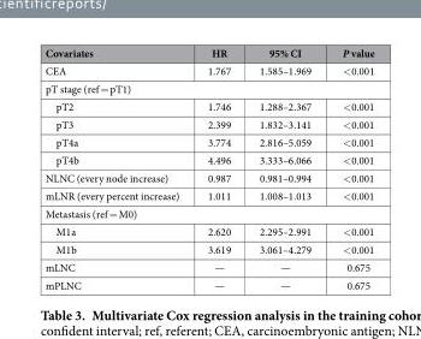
<table><thead><tr><td>Covariates</td><td>HR</td><td>95% CI</td><td>P value</td></tr></thead><tbody><tr><td>CEA</td><td>1.767</td><td>1.585–1.969</td><td>&lt; 0.001</td></tr><tr><td colspan="4">pT stage (ref = pT1)</td></tr><tr><td>pT2</td><td>1.746</td><td>1.288–2.367</td><td>&lt; 0.001</td></tr><tr><td>pT3</td><td>2.399</td><td>1.832–3.141</td><td>&lt; 0.001</td></tr><tr><td>pT4a</td><td>3.774</td><td>2.816–5.059</td><td>&lt; 0.001</td></tr><tr><td>pT4b</td><td>4.496</td><td>3.333–6.066</td><td>&lt; 0.001</td></tr><tr><td>NLNC (every node increase)</td><td>0.987</td><td>0.981–0.994</td><td>&lt; 0.001</td></tr><tr><td>mLNR (every percent increase)</td><td>1.011</td><td>1.008–1.013</td><td>&lt; 0.001</td></tr><tr><td colspan="4">Metastasis (ref = M0)</td></tr><tr><td>M1a</td><td>2.620</td><td>2.295–2.991</td><td>&lt; 0.001</td></tr><tr><td>M1b</td><td>3.619</td><td>3.061–4.279</td><td>&lt; 0.001</td></tr><tr><td>mLNC</td><td>—</td><td>—</td><td>0.675</td></tr><tr><td>mPLNC</td><td>—</td><td>—</td><td>0.675</td></tr></tbody></table>